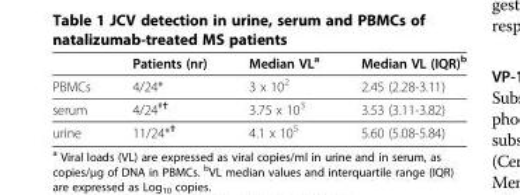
<table><thead><tr><td></td><td>Patients (nr)</td><td>Median VL<sup>a</sup></td><td>Median VL (IQR)<sup>b</sup></td></tr></thead><tbody><tr><td>PBMCs</td><td>4/24*</td><td>3 x 10<sup>2</sup></td><td>2.45 (2.28-3.11)</td></tr><tr><td>serum</td><td>4/24<sup>#†</sup></td><td>3.75 x 10<sup>3</sup></td><td>3.53 (3.11-3.82)</td></tr><tr><td>urine</td><td>11/24*<sup>†</sup></td><td>4.1 x 10<sup>5</sup></td><td>5.60 (5.08-5.84)</td></tr></tbody></table>